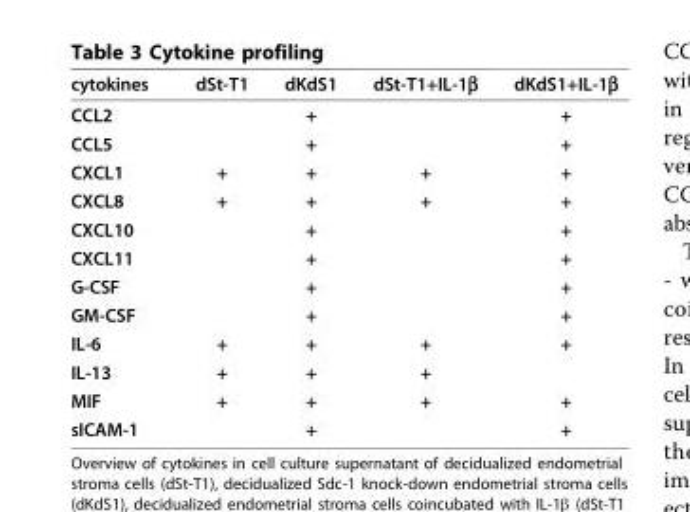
<table><thead><tr><td>cytokines</td><td>dSt-T1</td><td>dKdS1</td><td>dSt-T1+IL-1β</td><td>dKdS1+IL-1β</td></tr></thead><tbody><tr><td>CCL2</td><td></td><td>+</td><td></td><td>+</td></tr><tr><td>CCL5</td><td></td><td>+</td><td></td><td>+</td></tr><tr><td>CXCL1</td><td>+</td><td>+</td><td>+</td><td>+</td></tr><tr><td>CXCL8</td><td>+</td><td>+</td><td>+</td><td>+</td></tr><tr><td>CXCL10</td><td></td><td>+</td><td></td><td>+</td></tr><tr><td>CXCL11</td><td></td><td>+</td><td></td><td>+</td></tr><tr><td>G-CSF</td><td></td><td>+</td><td></td><td>+</td></tr><tr><td>GM-CSF</td><td></td><td>+</td><td></td><td>+</td></tr><tr><td>IL-6</td><td>+</td><td>+</td><td>+</td><td>+</td></tr><tr><td>IL-13</td><td>+</td><td>+</td><td>+</td><td></td></tr><tr><td>MIF</td><td>+</td><td>+</td><td>+</td><td>+</td></tr><tr><td>sICAM-1</td><td></td><td>+</td><td></td><td>+</td></tr></tbody></table>